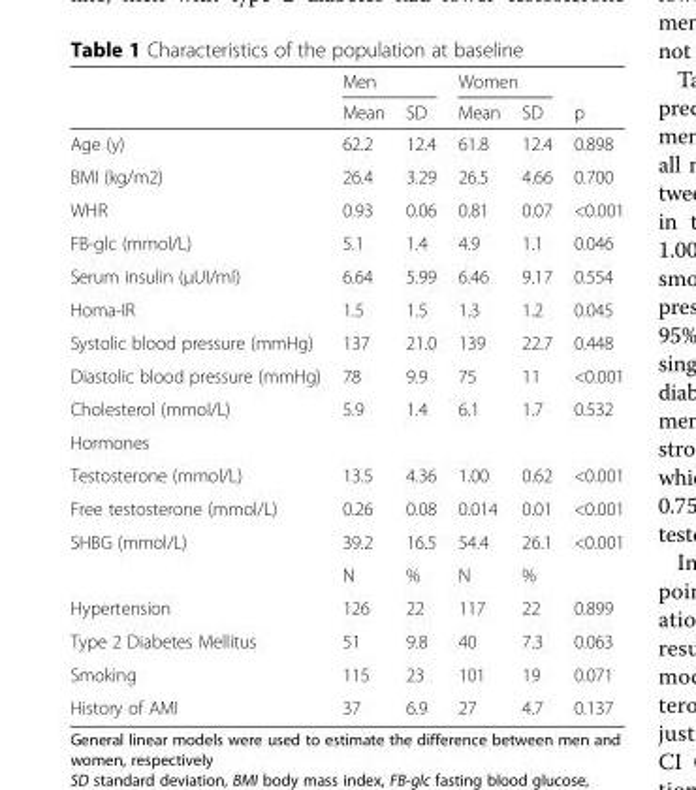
<table><thead><tr><td rowspan="2"></td><td colspan="2">Men</td><td colspan="2">Women</td><td rowspan="2">p</td></tr><tr><td>Mean</td><td>SD</td><td>Mean</td><td>SD</td></tr></thead><tbody><tr><td>Age (y)</td><td>62.2</td><td>12.4</td><td>61.8</td><td>12.4</td><td>0.898</td></tr><tr><td>BMI (kg/m2)</td><td>26.4</td><td>3.29</td><td>26.5</td><td>4.66</td><td>0.700</td></tr><tr><td>WHR</td><td>0.93</td><td>0.06</td><td>0.81</td><td>0.07</td><td>&lt;0.001</td></tr><tr><td>FB-glc (mmol/L)</td><td>5.1</td><td>1.4</td><td>4.9</td><td>1.1</td><td>0.046</td></tr><tr><td>Serum insulin (μUI/ml)</td><td>6.64</td><td>5.99</td><td>6.46</td><td>9.17</td><td>0.554</td></tr><tr><td>Homa-IR</td><td>1.5</td><td>1.5</td><td>1.3</td><td>1.2</td><td>0.045</td></tr><tr><td>Systolic blood pressure (mmHg)</td><td>137</td><td>21.0</td><td>139</td><td>22.7</td><td>0.448</td></tr><tr><td>Diastolic blood pressure (mmHg)</td><td>78</td><td>9.9</td><td>75</td><td>11</td><td>&lt;0.001</td></tr><tr><td>Cholesterol (mmol/L)</td><td>5.9</td><td>1.4</td><td>6.1</td><td>1.7</td><td>0.532</td></tr><tr><td colspan="6">Hormones</td></tr><tr><td>Testosterone (mmol/L)</td><td>13.5</td><td>4.36</td><td>1.00</td><td>0.62</td><td>&lt;0.001</td></tr><tr><td>Free testosterone (mmol/L)</td><td>0.26</td><td>0.08</td><td>0.014</td><td>0.01</td><td>&lt;0.001</td></tr><tr><td rowspan="2">SHBG (mmol/L)</td><td>39.2</td><td>16.5</td><td>54.4</td><td>26.1</td><td>&lt;0.001</td></tr><tr><td>N</td><td>%</td><td>N</td><td>%</td><td></td></tr><tr><td>Hypertension</td><td>126</td><td>22</td><td>117</td><td>22</td><td>0.899</td></tr><tr><td>Type 2 Diabetes Mellitus</td><td>51</td><td>9.8</td><td>40</td><td>7.3</td><td>0.063</td></tr><tr><td>Smoking</td><td>115</td><td>23</td><td>101</td><td>19</td><td>0.071</td></tr><tr><td>History of AMI</td><td>37</td><td>6.9</td><td>27</td><td>4.7</td><td>0.137</td></tr></tbody></table>